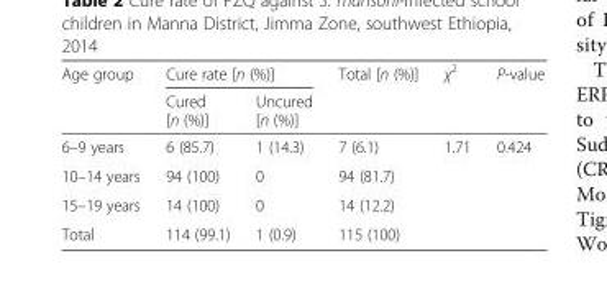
<table><thead><tr><td rowspan="2">Age group</td><td colspan="2">Cure rate [n (%)]</td><td rowspan="2">Total [n (%)]</td><td rowspan="2">χ<sup>2</sup></td><td rowspan="2">P-value</td></tr><tr><td>Cured [n (%)]</td><td>Uncured [n (%)]</td></tr></thead><tbody><tr><td>6–9 years</td><td>6 (85.7)</td><td>1 (14.3)</td><td>7 (6.1)</td><td rowspan="4">1.71</td><td rowspan="4">0.424</td></tr><tr><td>10–14 years</td><td>94 (100)</td><td>0</td><td>94 (81.7)</td></tr><tr><td>15–19 years</td><td>14 (100)</td><td>0</td><td>14 (12.2)</td></tr><tr><td>Total</td><td>114 (99.1)</td><td>1 (0.9)</td><td>115 (100)</td></tr></tbody></table>